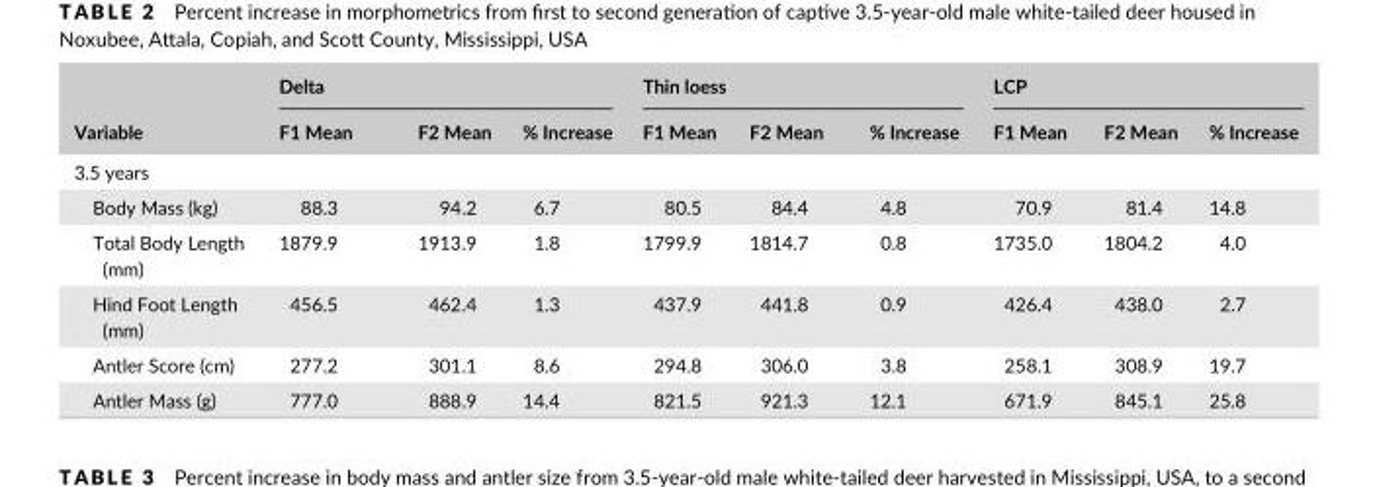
<table><thead><tr><td rowspan="2">Variable</td><td colspan="3">Delta</td><td colspan="3">Thin loess</td><td colspan="3">LCP</td></tr><tr><td>F1 Mean</td><td>F2 Mean</td><td>% Increase</td><td>F1 Mean</td><td>F2 Mean</td><td>% Increase</td><td>F1 Mean</td><td>F2 Mean</td><td>% Increase</td></tr></thead><tbody><tr><td colspan="10">3.5 years</td></tr><tr><td>Body Mass (kg)</td><td>88.3</td><td>94.2</td><td>6.7</td><td>80.5</td><td>84.4</td><td>4.8</td><td>70.9</td><td>81.4</td><td>14.8</td></tr><tr><td>Total Body Length (mm)</td><td>1879.9</td><td>1913.9</td><td>1.8</td><td>1799.9</td><td>1814.7</td><td>0.8</td><td>1735.0</td><td>1804.2</td><td>4.0</td></tr><tr><td>Hind Foot Length (mm)</td><td>456.5</td><td>462.4</td><td>1.3</td><td>437.9</td><td>441.8</td><td>0.9</td><td>426.4</td><td>438.0</td><td>2.7</td></tr><tr><td>Antler Score (cm)</td><td>277.2</td><td>301.1</td><td>8.6</td><td>294.8</td><td>306.0</td><td>3.8</td><td>258.1</td><td>308.9</td><td>19.7</td></tr><tr><td>Antler Mass (g)</td><td>777.0</td><td>888.9</td><td>14.4</td><td>821.5</td><td>921.3</td><td>12.1</td><td>671.9</td><td>845.1</td><td>25.8</td></tr></tbody></table>